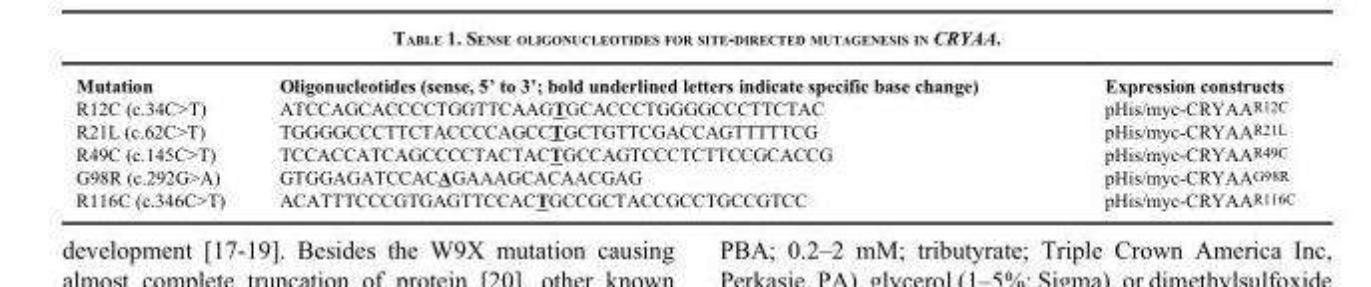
<table><thead><tr><td>Mutation</td><td>Oligonucleotides (sense, 5’ to 3’; bold underlined letters indicate specific base change)</td><td>Expression constructs</td></tr></thead><tbody><tr><td>R12C (c.34C&gt;T)</td><td>ATCCAGCACCCCTGGTTCAAGTGCACCCTGGGGCCCTTCTAC</td><td>pHis/myc-CRYAA<sup>R12C</sup></td></tr><tr><td>R21L (c.62C&gt;T)</td><td>TGGGGCCCTTCTACCCCAGCCTGCTGTTCGACCAGTTTTTCG</td><td>pHis/myc-CRYAA<sup>R21L</sup></td></tr><tr><td>R49C (c.145C&gt;T)</td><td>TCCACCATCAGCCCCTACTACTGCCAGTCCCTCTTCCGCACCG</td><td>pHis/myc-CRYAA<sup>R49C</sup></td></tr><tr><td>G98R (c.292G&gt;A)</td><td>GTGGAGATCCACAGAAAGCACAACGAG</td><td>pHis/myc-CRYAA<sup>G98R</sup></td></tr><tr><td>R116C (c.346C&gt;T)</td><td>ACATTTCCCGTGAGTTCCACTGCCGCTACCGCCTGCCGTCC</td><td>pHis/myc-CRYAA<sup>R116C</sup></td></tr></tbody></table>